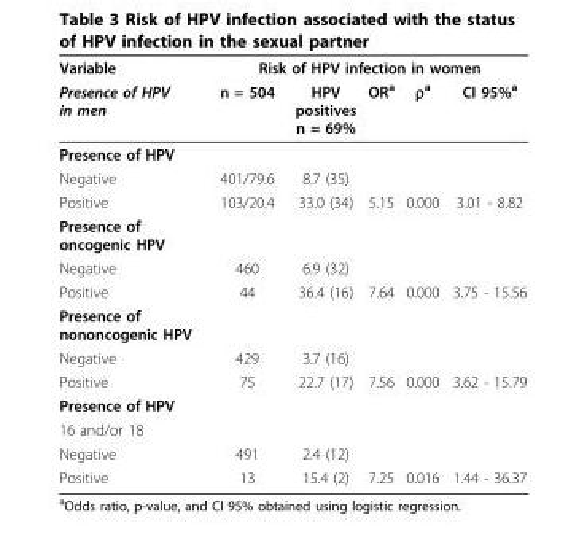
<table><thead><tr><td rowspan="2">Variable Presence of HPV in men</td><td colspan="5">Risk of HPV infection in women</td></tr><tr><td>n = 504</td><td>HPV positives n = 69%</td><td>OR<sup>a</sup></td><td>ρ<sup>a</sup></td><td>CI 95%<sup>a</sup></td></tr></thead><tbody><tr><td colspan="6">Presence of HPV</td></tr><tr><td>Negative</td><td>401/79.6</td><td>8.7 (35)</td><td></td><td></td><td></td></tr><tr><td>Positive</td><td>103/20.4</td><td>33.0 (34)</td><td>5.15</td><td>0.000</td><td>3.01 - 8.82</td></tr><tr><td colspan="6">Presence of oncogenic HPV</td></tr><tr><td>Negative</td><td>460</td><td>6.9 (32)</td><td></td><td></td><td></td></tr><tr><td>Positive</td><td>44</td><td>36.4 (16)</td><td>7.64</td><td>0.000</td><td>3.75 - 15.56</td></tr><tr><td colspan="6">Presence of nononcogenic HPV</td></tr><tr><td>Negative</td><td>429</td><td>3.7 (16)</td><td></td><td></td><td></td></tr><tr><td>Positive</td><td>75</td><td>22.7 (17)</td><td>7.56</td><td>0.000</td><td>3.62 - 15.79</td></tr><tr><td colspan="6">Presence of HPV</td></tr><tr><td colspan="6">16 and/or 18</td></tr><tr><td>Negative</td><td>491</td><td>2.4 (12)</td><td></td><td></td><td></td></tr><tr><td>Positive</td><td>13</td><td>15.4 (2)</td><td>7.25</td><td>0.016</td><td>1.44 - 36.37</td></tr></tbody></table>